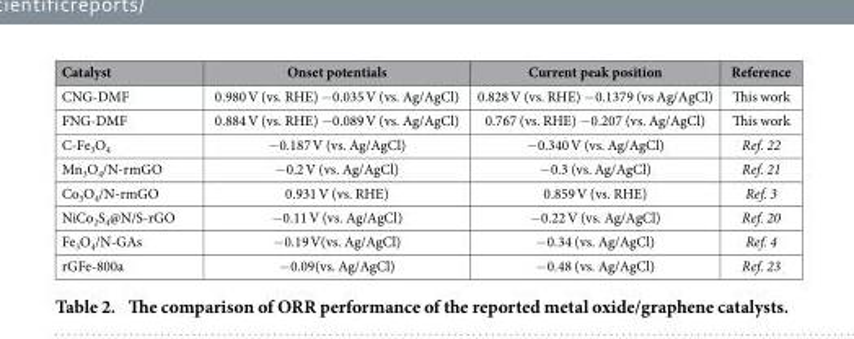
<table><thead><tr><td>Catalyst</td><td>Onset potentials</td><td>Current peak position</td><td>Reference</td></tr></thead><tbody><tr><td>CNG-DMF</td><td>0.980 V (vs. RHE) − 0.035 V (vs. Ag/AgCl)</td><td>0.828 V (vs. RHE) − 0.1379 (vs Ag/AgCl)</td><td>This work</td></tr><tr><td>FNG-DMF</td><td>0.884 V (vs. RHE) − 0.089 V (vs. Ag/AgCl)</td><td>0.767 (vs. RHE) − 0.207 (vs. Ag/AgCl)</td><td>This work</td></tr><tr><td>C-Fe<sub>3</sub>O<sub>4</sub></td><td>− 0.187 V (vs. Ag/AgCl)</td><td>− 0.340 V (vs. Ag/AgCl)</td><td>Ref. 22</td></tr><tr><td>Mn<sub>3</sub>O<sub>4</sub>/N-rmGO</td><td>− 0.2 V (vs. Ag/AgCl)</td><td>− 0.3 (vs. Ag/AgCl)</td><td>Ref. 21</td></tr><tr><td>Co<sub>3</sub>O<sub>4</sub>/N-rmGO</td><td>0.931 V (vs. RHE)</td><td>0.859 V (vs. RHE)</td><td>Ref. 3</td></tr><tr><td>NiCo<sub>2</sub>S<sub>4</sub>@N/S-rGO</td><td>− 0.11 V (vs. Ag/AgCl)</td><td>− 0.22 V (vs. Ag/AgCl)</td><td>Ref. 20</td></tr><tr><td>Fe<sub>3</sub>O<sub>4</sub>/N-GAs</td><td>− 0.19 V(vs. Ag/AgCl)</td><td>− 0.34 (vs. Ag/AgCl)</td><td>Ref. 4</td></tr><tr><td>rGFe-800a</td><td>− 0.09(vs. Ag/AgCl)</td><td>− 0.48 (vs. Ag/AgCl)</td><td>Ref. 23</td></tr></tbody></table>